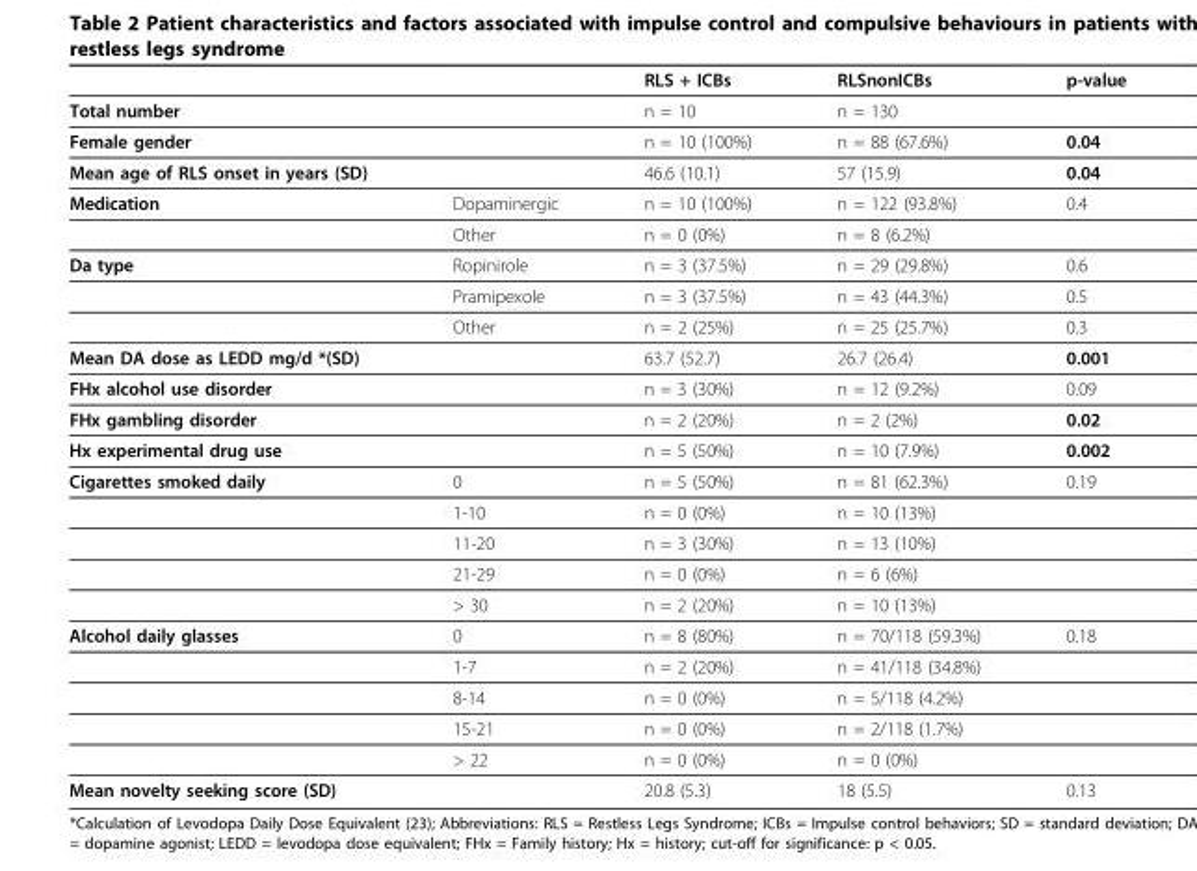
<table><thead><tr><td></td><td></td><td>RLS + ICBs</td><td>RLSnonICBs</td><td>p-value</td></tr></thead><tbody><tr><td>Total number</td><td></td><td>n = 10</td><td>n = 130</td><td></td></tr><tr><td>Female gender</td><td></td><td>n = 10 (100%)</td><td>n = 88 (67.6%)</td><td>0.04</td></tr><tr><td>Mean age of RLS onset in years (SD)</td><td></td><td>46.6 (10.1)</td><td>57 (15.9)</td><td>0.04</td></tr><tr><td rowspan="2">Medication</td><td>Dopaminergic</td><td>n = 10 (100%)</td><td>n = 122 (93.8%)</td><td>0.4</td></tr><tr><td>Other</td><td>n = 0 (0%)</td><td>n = 8 (6.2%)</td><td></td></tr><tr><td rowspan="3">Da type</td><td>Ropinirole</td><td>n = 3 (37.5%)</td><td>n = 29 (29.8%)</td><td>0.6</td></tr><tr><td>Pramipexole</td><td>n = 3 (37.5%)</td><td>n = 43 (44.3%)</td><td>0.5</td></tr><tr><td>Other</td><td>n = 2 (25%)</td><td>n = 25 (25.7%)</td><td>0.3</td></tr><tr><td>Mean DA dose as LEDD mg/d *(SD)</td><td></td><td>63.7 (52.7)</td><td>26.7 (26.4)</td><td>0.001</td></tr><tr><td>FHx alcohol use disorder</td><td></td><td>n = 3 (30%)</td><td>n = 12 (9.2%)</td><td>0.09</td></tr><tr><td>FHx gambling disorder</td><td></td><td>n = 2 (20%)</td><td>n = 2 (2%)</td><td>0.02</td></tr><tr><td>Hx experimental drug use</td><td></td><td>n = 5 (50%)</td><td>n = 10 (7.9%)</td><td>0.002</td></tr><tr><td rowspan="5">Cigarettes smoked daily</td><td>0</td><td>n = 5 (50%)</td><td>n = 81 (62.3%)</td><td>0.19</td></tr><tr><td>1-10</td><td>n = 0 (0%)</td><td>n = 10 (13%)</td><td></td></tr><tr><td>11-20</td><td>n = 3 (30%)</td><td>n = 13 (10%)</td><td></td></tr><tr><td>21-29</td><td>n = 0 (0%)</td><td>n = 6 (6%)</td><td></td></tr><tr><td>&gt; 30</td><td>n = 2 (20%)</td><td>n = 10 (13%)</td><td></td></tr><tr><td rowspan="5">Alcohol daily glasses</td><td>0</td><td>n = 8 (80%)</td><td>n = 70/118 (59.3%)</td><td>0.18</td></tr><tr><td>1-7</td><td>n = 2 (20%)</td><td>n = 41/118 (34.8%)</td><td></td></tr><tr><td>8-14</td><td>n = 0 (0%)</td><td>n = 5/118 (4.2%)</td><td></td></tr><tr><td>15-21</td><td>n = 0 (0%)</td><td>n = 2/118 (1.7%)</td><td></td></tr><tr><td>&gt; 22</td><td>n = 0 (0%)</td><td>n = 0 (0%)</td><td></td></tr><tr><td>Mean novelty seeking score (SD)</td><td></td><td>20.8 (5.3)</td><td>18 (5.5)</td><td>0.13</td></tr></tbody></table>